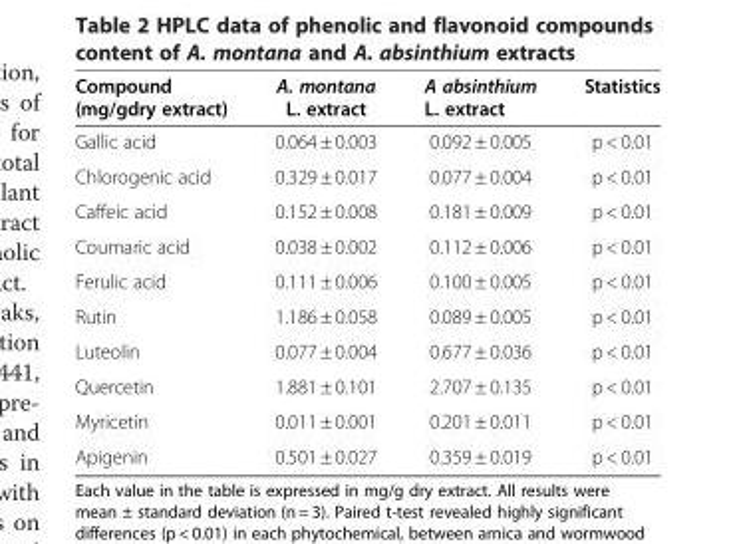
<table><thead><tr><td>Compound (mg/gdry extract)</td><td>A. montana L. extract</td><td>A absinthium L. extract</td><td>Statistics</td></tr></thead><tbody><tr><td>Gallic acid</td><td>0.064 ± 0.003</td><td>0.092 ± 0.005</td><td>p &lt; 0.01</td></tr><tr><td>Chlorogenic acid</td><td>0.329 ± 0.017</td><td>0.077 ± 0.004</td><td>p &lt; 0.01</td></tr><tr><td>Caffeic acid</td><td>0.152 ± 0.008</td><td>0.181 ± 0.009</td><td>p &lt; 0.01</td></tr><tr><td>Coumaric acid</td><td>0.038 ± 0.002</td><td>0.112 ± 0.006</td><td>p &lt; 0.01</td></tr><tr><td>Ferulic acid</td><td>0.111 ± 0.006</td><td>0.100 ± 0.005</td><td>p &lt; 0.01</td></tr><tr><td>Rutin</td><td>1.186 ± 0.058</td><td>0.089 ± 0.005</td><td>p &lt; 0.01</td></tr><tr><td>Luteolin</td><td>0.077 ± 0.004</td><td>0.677 ± 0.036</td><td>p &lt; 0.01</td></tr><tr><td>Quercetin</td><td>1.881 ± 0.101</td><td>2.707 ± 0.135</td><td>p &lt; 0.01</td></tr><tr><td>Myricetin</td><td>0.011 ± 0.001</td><td>0.201 ± 0.011</td><td>p &lt; 0.01</td></tr><tr><td>Apigenin</td><td>0.501 ± 0.027</td><td>0.359 ± 0.019</td><td>p &lt; 0.01</td></tr></tbody></table>